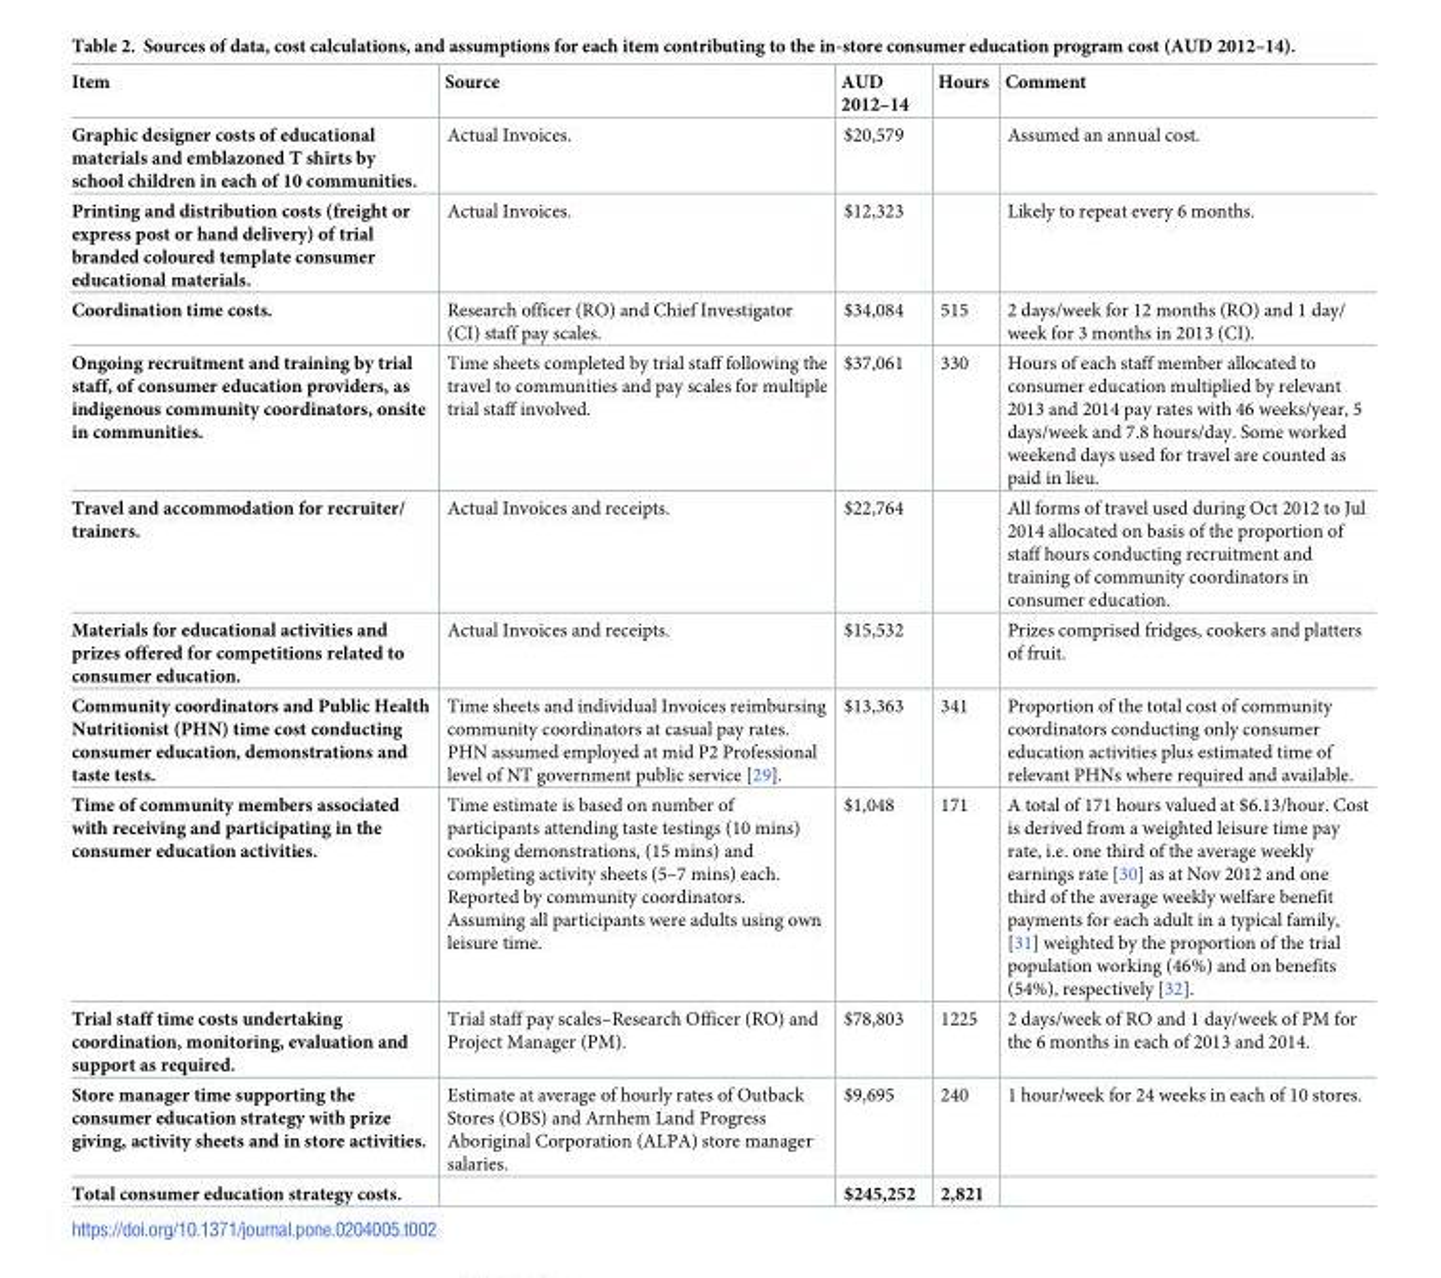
<table><thead><tr><td>Item</td><td>Source</td><td>AUD 2012–14</td><td>Hours</td><td>Comment</td></tr></thead><tbody><tr><td>Graphic designer costs of educational materials and emblazoned T shirts by school children in each of 10 communities.</td><td>Actual Invoices.</td><td>$20,579</td><td></td><td>Assumed an annual cost.</td></tr><tr><td>Printing and distribution costs (freight or express post or hand delivery) of trial branded coloured template consumer educational materials.</td><td>Actual Invoices.</td><td>$12,323</td><td></td><td>Likely to repeat every 6 months.</td></tr><tr><td>Coordination time costs.</td><td>Research officer (RO) and Chief Investigator (CI) staff pay scales.</td><td>$34,084</td><td>515</td><td>2 days/week for 12 months (RO) and 1 day/ week for 3 months in 2013 (CI).</td></tr><tr><td>Ongoing recruitment and training by trial staff, of consumer education providers, as indigenous community coordinators, onsite in communities.</td><td>Time sheets completed by trial staff following the travel to communities and pay scales for multiple trial staff involved.</td><td>$37,061</td><td>330</td><td>Hours of each staff member allocated to consumer education multiplied by relevant 2013 and 2014 pay rates with 46 weeks/year, 5 days/week and 7.8 hours/day. Some worked weekend days used for travel are counted as paid in lieu.</td></tr><tr><td>Travel and accommodation for recruiter/ trainers.</td><td>Actual Invoices and receipts.</td><td>$22,764</td><td></td><td>All forms of travel used during Oct 2012 to Jul 2014 allocated on basis of the proportion of staff hours conducting recruitment and training of community coordinators in consumer education.</td></tr><tr><td>Materials for educational activities and prizes offered for competitions related to consumer education.</td><td>Actual Invoices and receipts.</td><td>$15,532</td><td></td><td>Prizes comprised fridges, cookers and platters of fruit.</td></tr><tr><td>Community coordinators and Public Health Nutritionist (PHN) time cost conducting consumer education, demonstrations and taste tests.</td><td>Time sheets and individual Invoices reimbursing community coordinators at casual pay rates. PHN assumed employed at mid P2 Professional level of NT government public service [29].</td><td>$13,363</td><td>341</td><td>Proportion of the total cost of community coordinators conducting only consumer education activities plus estimated time of relevant PHNs where required and available.</td></tr><tr><td>Time of community members associated with receiving and participating in the consumer education activities.</td><td>Time estimate is based on number of participants attending taste testings (10 mins) cooking demonstrations, (15 mins) and completing activity sheets (5–7 mins) each. Reported by community coordinators. Assuming all participants were adults using own leisure time.</td><td>$1,048</td><td>171</td><td>A total of 171 hours valued at $6.13/hour. Cost is derived from a weighted leisure time pay rate, i.e. one third of the average weekly earnings rate [30] as at Nov 2012 and one third of the average weekly welfare benefit payments for each adult in a typical family, [31] weighted by the proportion of the trial population working (46%) and on benefits (54%), respectively [32].</td></tr><tr><td>Trial staff time costs undertaking coordination, monitoring, evaluation and support as required.</td><td>Trial staff pay scales–Research Officer (RO) and Project Manager (PM).</td><td>$78,803</td><td>1225</td><td>2 days/week of RO and 1 day/week of PM for the 6 months in each of 2013 and 2014.</td></tr><tr><td>Store manager time supporting the consumer education strategy with prize giving, activity sheets and in store activities.</td><td>Estimate at average of hourly rates of Outback Stores (OBS) and Arnhem Land Progress Aboriginal Corporation (ALPA) store manager salaries.</td><td>$9,695</td><td>240</td><td>1 hour/week for 24 weeks in each of 10 stores.</td></tr><tr><td>Total consumer education strategy costs.</td><td></td><td>$245,252</td><td>2,821</td><td></td></tr></tbody></table>